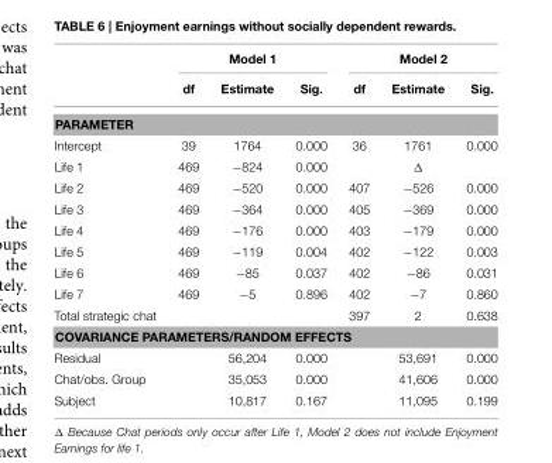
<table><thead><tr><td rowspan="2"></td><td colspan="3">Model 1</td><td colspan="3">Model 2</td></tr><tr><td>df</td><td>Estimate</td><td>Sig.</td><td>df</td><td>Estimate</td><td>Sig.</td></tr></thead><tbody><tr><td colspan="7">PARAMETER</td></tr><tr><td>Intercept</td><td>39</td><td>1764</td><td>0.000</td><td>36</td><td>1761</td><td>0.000</td></tr><tr><td>Life 1</td><td>469</td><td>−824</td><td>0.000</td><td></td><td>Δ</td><td></td></tr><tr><td>Life 2</td><td>469</td><td>−520</td><td>0.000</td><td>407</td><td>−526</td><td>0.000</td></tr><tr><td>Life 3</td><td>469</td><td>−364</td><td>0.000</td><td>405</td><td>−369</td><td>0.000</td></tr><tr><td>Life 4</td><td>469</td><td>−176</td><td>0.000</td><td>403</td><td>−179</td><td>0.000</td></tr><tr><td>Life 5</td><td>469</td><td>−119</td><td>0.004</td><td>402</td><td>−122</td><td>0.003</td></tr><tr><td>Life 6</td><td>469</td><td>−85</td><td>0.037</td><td>402</td><td>−86</td><td>0.031</td></tr><tr><td>Life 7</td><td>469</td><td>−5</td><td>0.896</td><td>402</td><td>−7</td><td>0.860</td></tr><tr><td>Total strategic chat</td><td></td><td></td><td></td><td>397</td><td>2</td><td>0.638</td></tr><tr><td colspan="7">COVARIANCE PARAMETERS/RANDOM EFFECTS</td></tr><tr><td>Residual</td><td></td><td>56,204</td><td>0.000</td><td></td><td>53,691</td><td>0.000</td></tr><tr><td>Chat/obs. Group</td><td></td><td>35,053</td><td>0.000</td><td></td><td>41,606</td><td>0.000</td></tr><tr><td>Subject</td><td></td><td>10,817</td><td>0.167</td><td></td><td>11,095</td><td>0.199</td></tr></tbody></table>